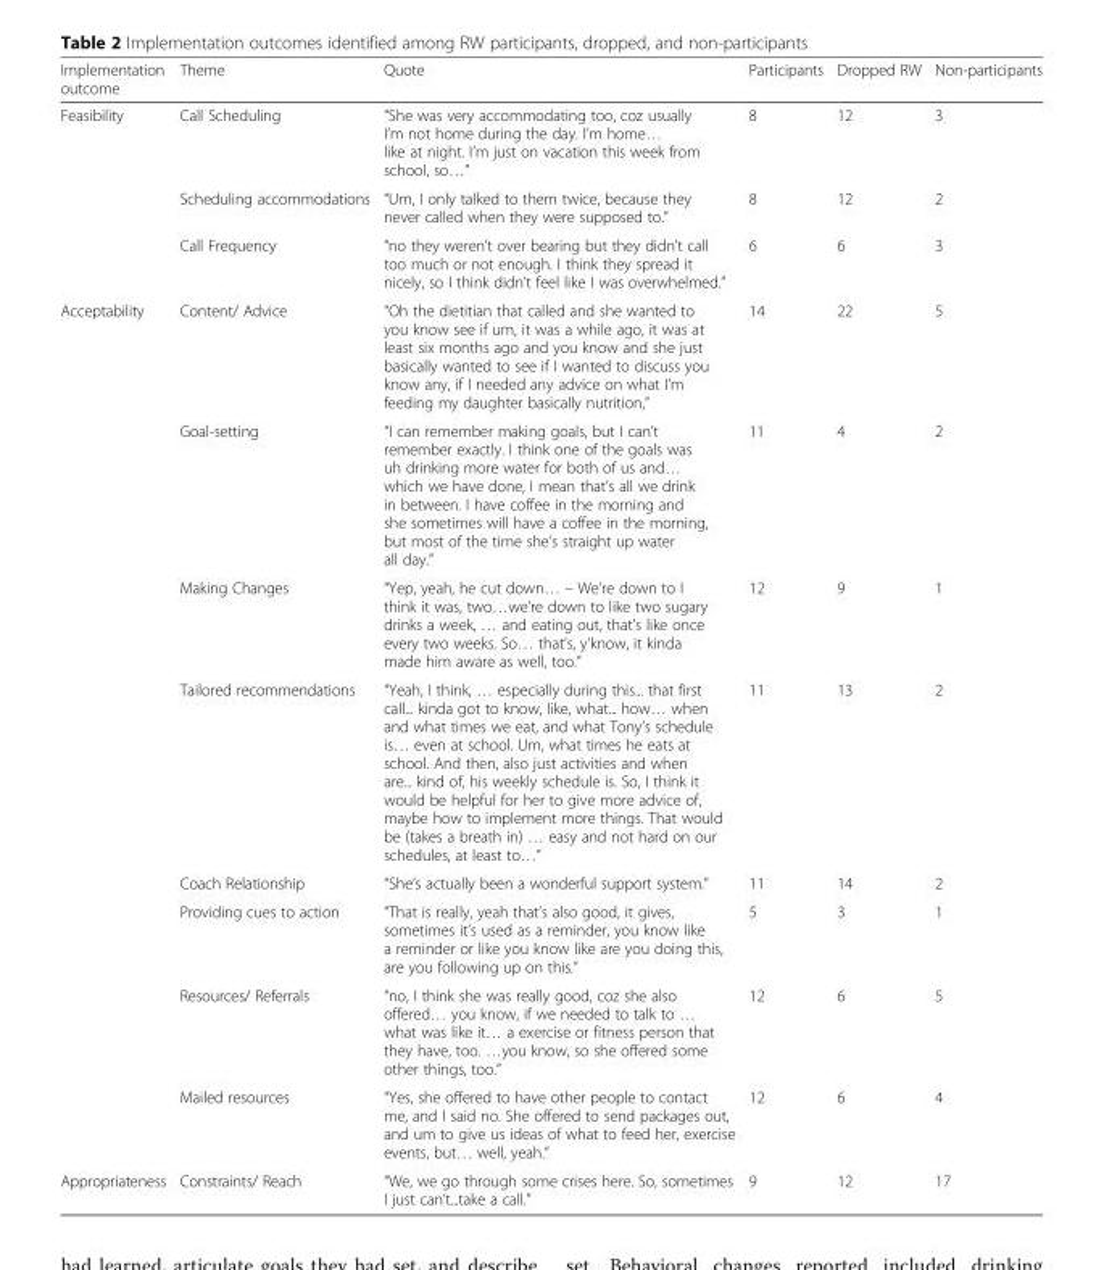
<table><thead><tr><td>Implementation outcome</td><td>Theme</td><td>Quote</td><td>Participants</td><td>Dropped RW</td><td>Non-participants</td></tr></thead><tbody><tr><td rowspan="3">Feasibility</td><td>Call Scheduling</td><td>“She was very accommodating too, coz usually I’m not home during the day. I’m home… like at night. I’m just on vacation this week from school, so…”</td><td>8</td><td>12</td><td>3</td></tr><tr><td>Scheduling accommodations</td><td>“Um, I only talked to them twice, because they never called when they were supposed to.”</td><td>8</td><td>12</td><td>2</td></tr><tr><td>Call Frequency</td><td>“no they weren’t over bearing but they didn’t call too much or not enough. I think they spread it nicely, so I think didn’t feel like I was overwhelmed.”</td><td>6</td><td>6</td><td>3</td></tr><tr><td rowspan="8">Acceptability</td><td>Content/ Advice</td><td>“Oh the dietitian that called and she wanted to you know see if um, it was a while ago, it was at least six months ago and you know and she just basically wanted to see if I wanted to discuss you know any, if I needed any advice on what I’m feeding my daughter basically nutrition,”</td><td>14</td><td>22</td><td>5</td></tr><tr><td>Goal-setting</td><td>“I can remember making goals, but I can’t remember exactly. I think one of the goals was uh drinking more water for both of us and… which we have done, I mean that’s all we drink in between. I have coffee in the morning and she sometimes will have a coffee in the morning, but most of the time she’s straight up water all day.”</td><td>11</td><td>4</td><td>2</td></tr><tr><td>Making Changes</td><td>“Yep, yeah, he cut down… – We’re down to I think it was, two…we’re down to like two sugary drinks a week, … and eating out, that’s like once every two weeks. So… that’s, y’know, it kinda made him aware as well, too.”</td><td>12</td><td>9</td><td>1</td></tr><tr><td>Tailored recommendations</td><td>“Yeah, I think, … especially during this... that first call... kinda got to know, like, what... how… when and what times we eat, and what Tony’s schedule is… even at school. Um, what times he eats at school. And then, also just activities and when are... kind of, his weekly schedule is. So, I think it would be helpful for her to give more advice of, maybe how to implement more things. That would be (takes a breath in) … easy and not hard on our schedules, at least to…”</td><td>11</td><td>13</td><td>2</td></tr><tr><td>Coach Relationship</td><td>“She’s actually been a wonderful support system.”</td><td>11</td><td>14</td><td>2</td></tr><tr><td>Providing cues to action</td><td>“That is really, yeah that’s also good, it gives, sometimes it’s used as a reminder, you know like a reminder or like you know like are you doing this, are you following up on this.”</td><td>5</td><td>3</td><td>1</td></tr><tr><td>Resources/ Referrals</td><td>“no, I think she was really good, coz she also offered… you know, if we needed to talk to … what was like it… a exercise or fitness person that they have, too. …you know, so she offered some other things, too.”</td><td>12</td><td>6</td><td>5</td></tr><tr><td>Mailed resources</td><td>“Yes, she offered to have other people to contact me, and I said no. She offered to send packages out, and um to give us ideas of what to feed her, exercise events, but… well, yeah.”</td><td>12</td><td>6</td><td>4</td></tr><tr><td>Appropriateness</td><td>Constraints/ Reach</td><td>“We, we go through some crises here. So, sometimes I just can’t...take a call.”</td><td>9</td><td>12</td><td>17</td></tr></tbody></table>